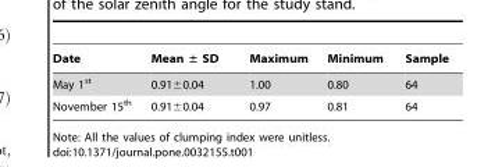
<table><thead><tr><td>Date</td><td>Mean ± SD</td><td>Maximum</td><td>Minimum</td><td>Sample</td></tr></thead><tbody><tr><td>May 1<sup>st</sup></td><td>0.91±0.04</td><td>1.00</td><td>0.80</td><td>64</td></tr><tr><td>November 15<sup>th</sup></td><td>0.91±0.04</td><td>0.97</td><td>0.81</td><td>64</td></tr></tbody></table>